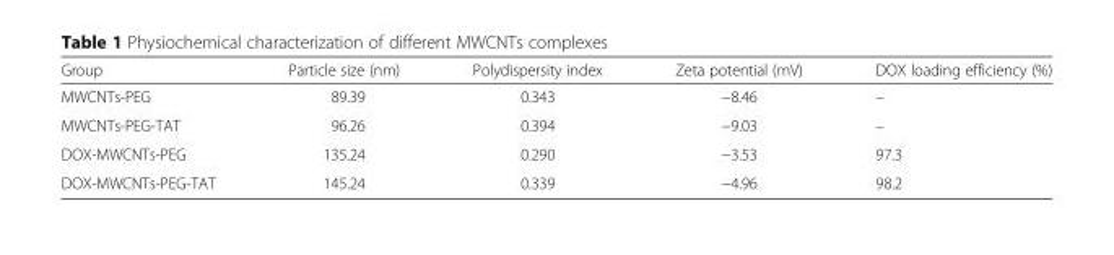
<table><thead><tr><td>Group</td><td>Particle size (nm)</td><td>Polydispersity index</td><td>Zeta potential (mV)</td><td>DOX loading efficiency (%)</td></tr></thead><tbody><tr><td>MWCNTs-PEG</td><td>89.39</td><td>0.343</td><td>−8.46</td><td>–</td></tr><tr><td>MWCNTs-PEG-TAT</td><td>96.26</td><td>0.394</td><td>−9.03</td><td>–</td></tr><tr><td>DOX-MWCNTs-PEG</td><td>135.24</td><td>0.290</td><td>−3.53</td><td>97.3</td></tr><tr><td>DOX-MWCNTs-PEG-TAT</td><td>145.24</td><td>0.339</td><td>−4.96</td><td>98.2</td></tr></tbody></table>